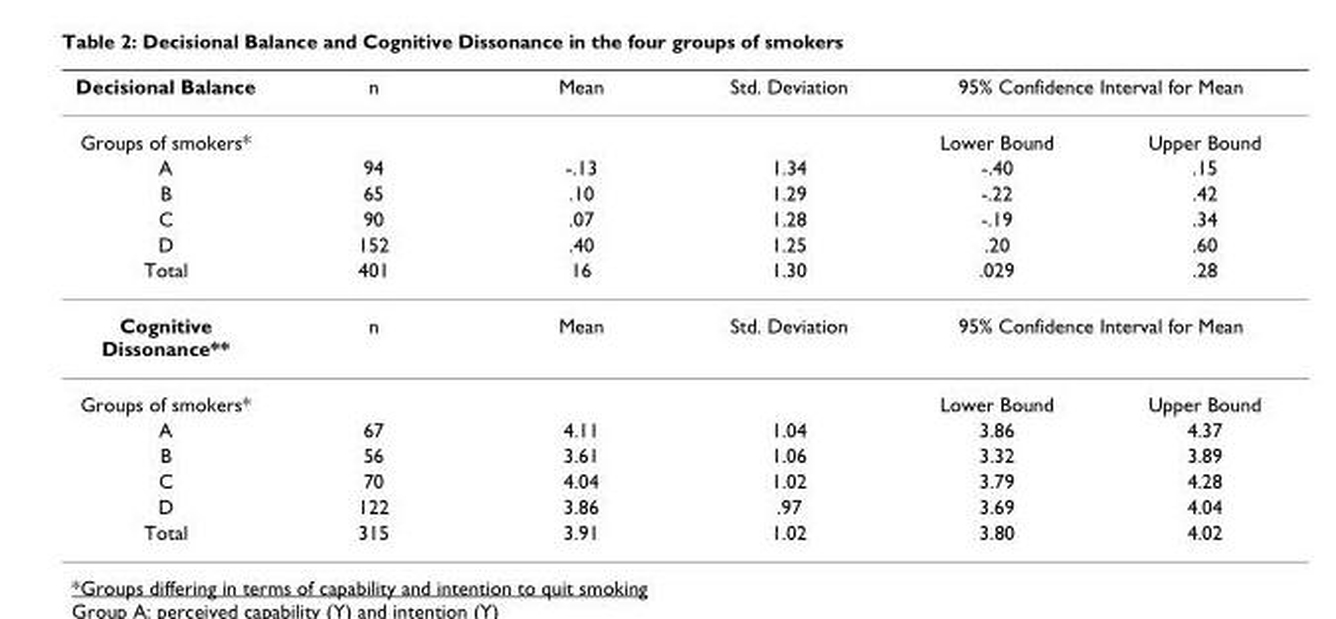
<table><thead><tr><td rowspan="2">Decisional Balance Groups of smokers*</td><td rowspan="2">n</td><td rowspan="2">Mean</td><td rowspan="2">Std. Deviation</td><td colspan="2">95% Confidence Interval for Mean</td></tr><tr><td>Lower Bound</td><td>Upper Bound</td></tr></thead><tbody><tr><td>A</td><td>94</td><td>-.13</td><td>1.34</td><td>-.40</td><td>.15</td></tr><tr><td>B</td><td>65</td><td>.10</td><td>1.29</td><td>-.22</td><td>.42</td></tr><tr><td>C</td><td>90</td><td>.07</td><td>1.28</td><td>-.19</td><td>.34</td></tr><tr><td>D</td><td>152</td><td>.40</td><td>1.25</td><td>.20</td><td>.60</td></tr><tr><td>Total</td><td>401</td><td>16</td><td>1.30</td><td>.029</td><td>.28</td></tr><tr><td>Cognitive Dissonance**</td><td>n</td><td>Mean</td><td>Std. Deviation</td><td colspan="2">95% Confidence Interval for Mean</td></tr><tr><td>Groups of smokers*</td><td></td><td></td><td></td><td>Lower Bound</td><td>Upper Bound</td></tr><tr><td>A</td><td>67</td><td>4.11</td><td>1.04</td><td>3.86</td><td>4.37</td></tr><tr><td>B</td><td>56</td><td>3.61</td><td>1.06</td><td>3.32</td><td>3.89</td></tr><tr><td>C</td><td>70</td><td>4.04</td><td>1.02</td><td>3.79</td><td>4.28</td></tr><tr><td>D</td><td>122</td><td>3.86</td><td>.97</td><td>3.69</td><td>4.04</td></tr><tr><td>Total</td><td>315</td><td>3.91</td><td>1.02</td><td>3.80</td><td>4.02</td></tr></tbody></table>